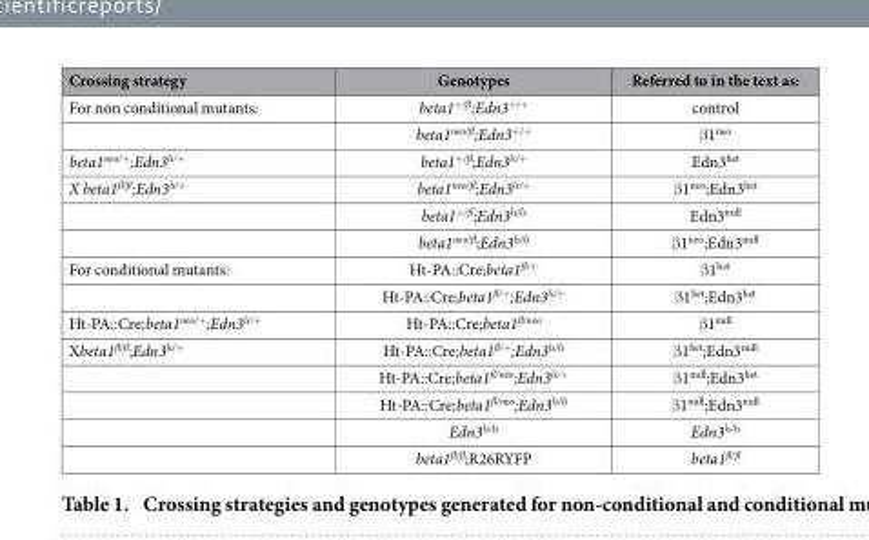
<table><thead><tr><td>Crossing strategy</td><td>Genotypes</td><td>Referred to in the text as:</td></tr></thead><tbody><tr><td rowspan="2">For non conditional mutants:</td><td>beta1<sup>+/fl</sup>;Edn3<sup>+/+</sup></td><td>control</td></tr><tr><td>beta1<sup>neo/fl</sup>;Edn3<sup>+/+</sup></td><td>β 1<sup>neo</sup></td></tr><tr><td>beta1<sup>neo/+</sup>;Edn3<sup>ls/+</sup></td><td>beta1<sup>+/fl</sup>;Edn3<sup>ls/+</sup></td><td>Edn3<sup>het</sup></td></tr><tr><td rowspan="3">X beta1<sup>fl/fl</sup>;Edn3<sup>ls/+</sup></td><td>beta1<sup>neo/fl</sup>;Edn3<sup>ls/+</sup></td><td>β 1<sup>neo</sup>;Edn3<sup>het</sup></td></tr><tr><td>beta1<sup>+/fl</sup>;Edn3<sup>ls/ls</sup></td><td>Edn3<sup>null</sup></td></tr><tr><td>beta1<sup>neo/fl</sup>;Edn3<sup>ls/ls</sup></td><td>β 1<sup>neo</sup>;Edn3<sup>null</sup></td></tr><tr><td rowspan="2">For conditional mutants:</td><td>Ht-PA::Cre;beta1<sup>fl/+</sup></td><td>β 1<sup>het</sup></td></tr><tr><td>Ht-PA::Cre;beta1<sup>fl/+</sup>;Edn3<sup>ls/+</sup></td><td>β 1<sup>het</sup>;Edn3<sup>het</sup></td></tr><tr><td>Ht-PA::Cre;beta1<sup>neo/+</sup>;Edn3<sup>ls/+</sup></td><td>Ht-PA::Cre;beta1<sup>fl/neo</sup></td><td>β 1<sup>null</sup></td></tr><tr><td rowspan="5">Xbeta1<sup>fl/fl</sup>;Edn3<sup>ls/+</sup></td><td>Ht-PA::Cre;beta1<sup>fl/+</sup>;Edn3<sup>ls/ls</sup></td><td>β 1<sup>het</sup>;Edn3<sup>null</sup></td></tr><tr><td>Ht-PA::Cre;beta1<sup>fl/neo</sup>;Edn3<sup>ls/+</sup></td><td>β 1<sup>null</sup>;Edn3<sup>het</sup></td></tr><tr><td>Ht-PA::Cre;beta1<sup>fl/neo</sup>;Edn3<sup>ls/ls</sup></td><td>β 1<sup>null</sup>;Edn3<sup>null</sup></td></tr><tr><td>Edn3<sup>ls/ls</sup></td><td>Edn3<sup>ls/ls</sup></td></tr><tr><td>beta1<sup>fl/fl</sup>;R26RYFP</td><td>beta1<sup>fl/fl</sup></td></tr></tbody></table>